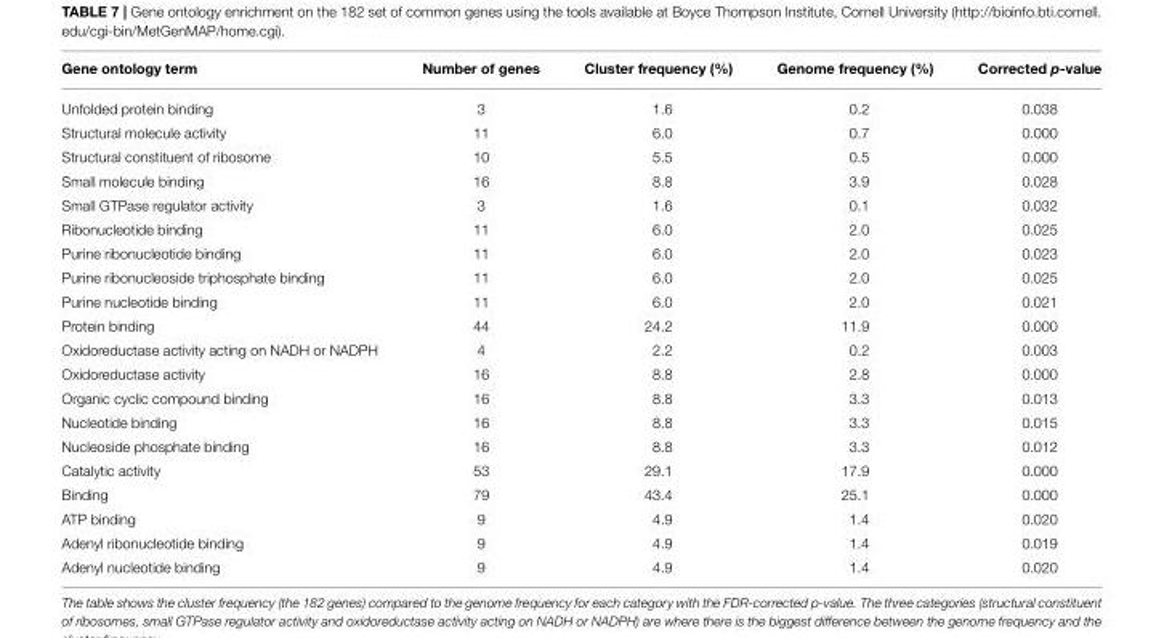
<table><thead><tr><td>Gene ontology term</td><td>Number of genes</td><td>Cluster frequency (%)</td><td>Genome frequency (%)</td><td>Corrected p-value</td></tr></thead><tbody><tr><td>Unfolded protein binding</td><td>3</td><td>1.6</td><td>0.2</td><td>0.038</td></tr><tr><td>Structural molecule activity</td><td>11</td><td>6.0</td><td>0.7</td><td>0.000</td></tr><tr><td>Structural constituent of ribosome</td><td>10</td><td>5.5</td><td>0.5</td><td>0.000</td></tr><tr><td>Small molecule binding</td><td>16</td><td>8.8</td><td>3.9</td><td>0.028</td></tr><tr><td>Small GTPase regulator activity</td><td>3</td><td>1.6</td><td>0.1</td><td>0.032</td></tr><tr><td>Ribonucleotide binding</td><td>11</td><td>6.0</td><td>2.0</td><td>0.025</td></tr><tr><td>Purine ribonucleotide binding</td><td>11</td><td>6.0</td><td>2.0</td><td>0.023</td></tr><tr><td>Purine ribonucleoside triphosphate binding</td><td>11</td><td>6.0</td><td>2.0</td><td>0.025</td></tr><tr><td>Purine nucleotide binding</td><td>11</td><td>6.0</td><td>2.0</td><td>0.021</td></tr><tr><td>Protein binding</td><td>44</td><td>24.2</td><td>11.9</td><td>0.000</td></tr><tr><td>Oxidoreductase activity acting on NADH or NADPH</td><td>4</td><td>2.2</td><td>0.2</td><td>0.003</td></tr><tr><td>Oxidoreductase activity</td><td>16</td><td>8.8</td><td>2.8</td><td>0.000</td></tr><tr><td>Organic cyclic compound binding</td><td>16</td><td>8.8</td><td>3.3</td><td>0.013</td></tr><tr><td>Nucleotide binding</td><td>16</td><td>8.8</td><td>3.3</td><td>0.015</td></tr><tr><td>Nucleoside phosphate binding</td><td>16</td><td>8.8</td><td>3.3</td><td>0.012</td></tr><tr><td>Catalytic activity</td><td>53</td><td>29.1</td><td>17.9</td><td>0.000</td></tr><tr><td>Binding</td><td>79</td><td>43.4</td><td>25.1</td><td>0.000</td></tr><tr><td>ATP binding</td><td>9</td><td>4.9</td><td>1.4</td><td>0.020</td></tr><tr><td>Adenyl ribonucleotide binding</td><td>9</td><td>4.9</td><td>1.4</td><td>0.019</td></tr><tr><td>Adenyl nucleotide binding</td><td>9</td><td>4.9</td><td>1.4</td><td>0.020</td></tr></tbody></table>